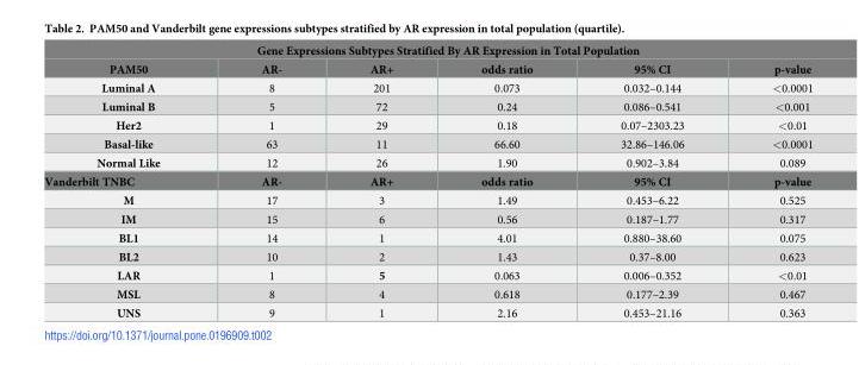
<table><thead><tr><td colspan="6">Gene Expressions Subtypes Stratified By AR Expression in Total Population</td></tr><tr><td>PAM50</td><td>AR-</td><td>AR+</td><td>odds ratio</td><td>95% CI</td><td>p-value</td></tr></thead><tbody><tr><td>Luminal A</td><td>8</td><td>201</td><td>0.073</td><td>0.032–0.144</td><td>&lt;0.0001</td></tr><tr><td>Luminal B</td><td>5</td><td>72</td><td>0.24</td><td>0.086–0.541</td><td>&lt;0.001</td></tr><tr><td>Her2</td><td>1</td><td>29</td><td>0.18</td><td>0.07–2303.23</td><td>&lt;0.01</td></tr><tr><td>Basal-like</td><td>63</td><td>11</td><td>66.60</td><td>32.86–146.06</td><td>&lt;0.0001</td></tr><tr><td>Normal Like</td><td>12</td><td>26</td><td>1.90</td><td>0.902–3.84</td><td>0.089</td></tr><tr><td>Vanderbilt TNBC</td><td>AR-</td><td>AR+</td><td>odds ratio</td><td>95% CI</td><td>p-value</td></tr><tr><td>M</td><td>17</td><td>3</td><td>1.49</td><td>0.453–6.22</td><td>0.525</td></tr><tr><td>IM</td><td>15</td><td>6</td><td>0.56</td><td>0.187–1.77</td><td>0.317</td></tr><tr><td>BL1</td><td>14</td><td>1</td><td>4.01</td><td>0.880–38.60</td><td>0.075</td></tr><tr><td>BL2</td><td>10</td><td>2</td><td>1.43</td><td>0.37–8.00</td><td>0.623</td></tr><tr><td>LAR</td><td>1</td><td>5</td><td>0.063</td><td>0.006–0.352</td><td>&lt;0.01</td></tr><tr><td>MSL</td><td>8</td><td>4</td><td>0.618</td><td>0.177–2.39</td><td>0.467</td></tr><tr><td>UNS</td><td>9</td><td>1</td><td>2.16</td><td>0.453–21.16</td><td>0.363</td></tr></tbody></table>